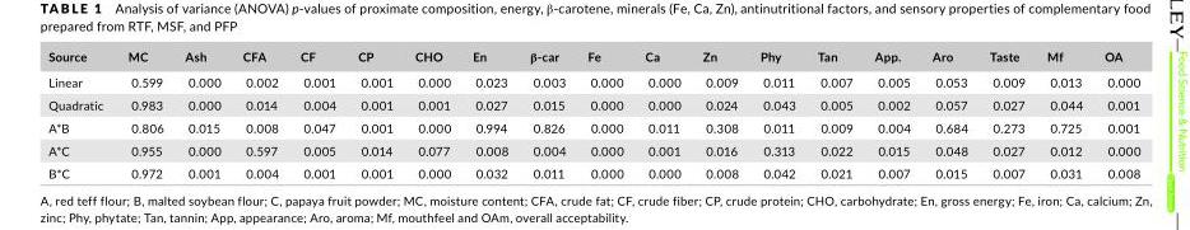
<table><thead><tr><td>Source</td><td>MC</td><td>Ash</td><td>CFA</td><td>CF</td><td>CP</td><td>CHO</td><td>En</td><td>β- car</td><td>Fe</td><td>Ca</td><td>Zn</td><td>Phy</td><td>Tan</td><td>App.</td><td>Aro</td><td>Taste</td><td>Mf</td><td>OA</td></tr></thead><tbody><tr><td>Linear</td><td>0.599</td><td>0.000</td><td>0.002</td><td>0.001</td><td>0.001</td><td>0.000</td><td>0.023</td><td>0.003</td><td>0.000</td><td>0.000</td><td>0.009</td><td>0.011</td><td>0.007</td><td>0.005</td><td>0.053</td><td>0.009</td><td>0.013</td><td>0.000</td></tr><tr><td>Quadratic</td><td>0.983</td><td>0.000</td><td>0.014</td><td>0.004</td><td>0.001</td><td>0.001</td><td>0.027</td><td>0.015</td><td>0.000</td><td>0.000</td><td>0.024</td><td>0.043</td><td>0.005</td><td>0.002</td><td>0.057</td><td>0.027</td><td>0.044</td><td>0.001</td></tr><tr><td>A*B</td><td>0.806</td><td>0.015</td><td>0.008</td><td>0.047</td><td>0.001</td><td>0.000</td><td>0.994</td><td>0.826</td><td>0.000</td><td>0.011</td><td>0.308</td><td>0.011</td><td>0.009</td><td>0.004</td><td>0.684</td><td>0.273</td><td>0.725</td><td>0.001</td></tr><tr><td>A*C</td><td>0.955</td><td>0.000</td><td>0.597</td><td>0.005</td><td>0.014</td><td>0.077</td><td>0.008</td><td>0.004</td><td>0.000</td><td>0.001</td><td>0.016</td><td>0.313</td><td>0.022</td><td>0.015</td><td>0.048</td><td>0.027</td><td>0.012</td><td>0.000</td></tr><tr><td>B*C</td><td>0.972</td><td>0.001</td><td>0.004</td><td>0.001</td><td>0.001</td><td>0.000</td><td>0.032</td><td>0.011</td><td>0.000</td><td>0.000</td><td>0.008</td><td>0.042</td><td>0.021</td><td>0.007</td><td>0.015</td><td>0.007</td><td>0.031</td><td>0.008</td></tr></tbody></table>